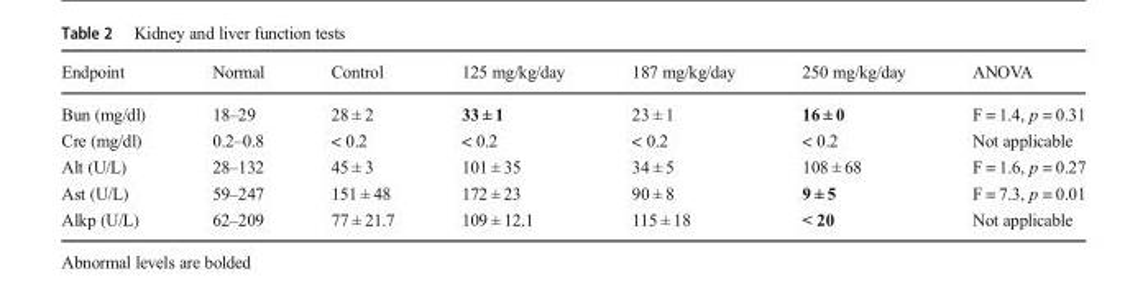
<table><thead><tr><td>Endpoint</td><td>Normal</td><td>Control</td><td>125 mg/kg/day</td><td>187 mg/kg/day</td><td>250 mg/kg/day</td><td>ANOVA</td></tr></thead><tbody><tr><td>Bun (mg/dl)</td><td>18–29</td><td>28 ± 2</td><td>33 ± 1</td><td>23 ± 1</td><td>16 ± 0</td><td>F = 1.4, p = 0.31</td></tr><tr><td>Cre (mg/dl)</td><td>0.2–0.8</td><td>&lt; 0.2</td><td>&lt; 0.2</td><td>&lt; 0.2</td><td>&lt; 0.2</td><td>Not applicable</td></tr><tr><td>Alt (U/L)</td><td>28–132</td><td>45 ± 3</td><td>101 ± 35</td><td>34 ± 5</td><td>108 ± 68</td><td>F = 1.6, p = 0.27</td></tr><tr><td>Ast (U/L)</td><td>59–247</td><td>151 ± 48</td><td>172 ± 23</td><td>90 ± 8</td><td>9 ± 5</td><td>F = 7.3, p = 0.01</td></tr><tr><td>Alkp (U/L)</td><td>62–209</td><td>77 ± 21.7</td><td>109 ± 12.1</td><td>115 ± 18</td><td>&lt; 20</td><td>Not applicable</td></tr></tbody></table>